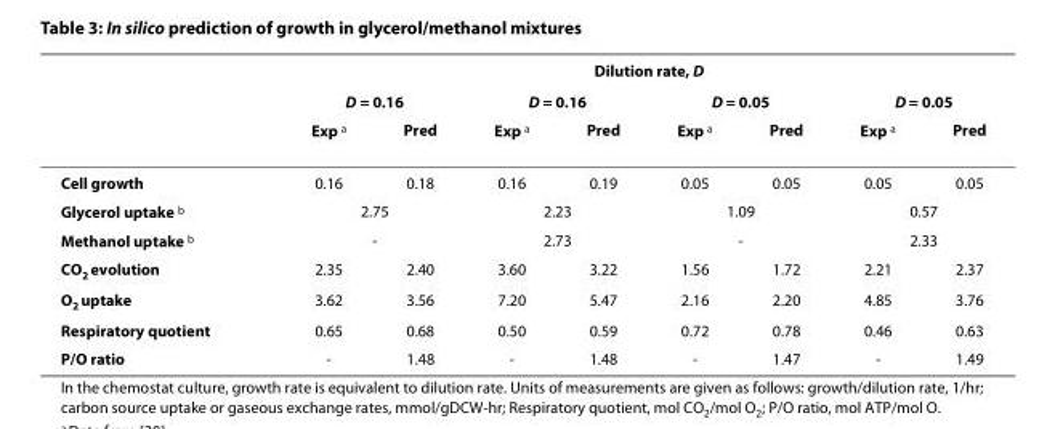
<table><thead><tr><td rowspan="3"></td><td colspan="8">Dilution rate, D</td></tr><tr><td colspan="2">D = 0.16</td><td colspan="2">D = 0.16</td><td colspan="2">D = 0.05</td><td colspan="2">D = 0.05</td></tr><tr><td>Exp <sup>a</sup></td><td>Pred</td><td>Exp <sup>a</sup></td><td>Pred</td><td>Exp <sup>a</sup></td><td>Pred</td><td>Exp <sup>a</sup></td><td>Pred</td></tr></thead><tbody><tr><td>Cell growth</td><td>0.16</td><td>0.18</td><td>0.16</td><td>0.19</td><td>0.05</td><td>0.05</td><td>0.05</td><td>0.05</td></tr><tr><td>Glycerol uptake <sup>b</sup></td><td colspan="2">2.75</td><td colspan="2">2.23</td><td colspan="2">1.09</td><td colspan="2">0.57</td></tr><tr><td>Methanol uptake <sup>b</sup></td><td colspan="2">-</td><td colspan="2">2.73</td><td colspan="2">-</td><td colspan="2">2.33</td></tr><tr><td>CO<sub>2</sub> evolution</td><td>2.35</td><td>2.40</td><td>3.60</td><td>3.22</td><td>1.56</td><td>1.72</td><td>2.21</td><td>2.37</td></tr><tr><td>O<sub>2</sub> uptake</td><td>3.62</td><td>3.56</td><td>7.20</td><td>5.47</td><td>2.16</td><td>2.20</td><td>4.85</td><td>3.76</td></tr><tr><td>Respiratory quotient</td><td>0.65</td><td>0.68</td><td>0.50</td><td>0.59</td><td>0.72</td><td>0.78</td><td>0.46</td><td>0.63</td></tr><tr><td>P/O ratio</td><td>-</td><td>1.48</td><td>-</td><td>1.48</td><td>-</td><td>1.47</td><td>-</td><td>1.49</td></tr></tbody></table>